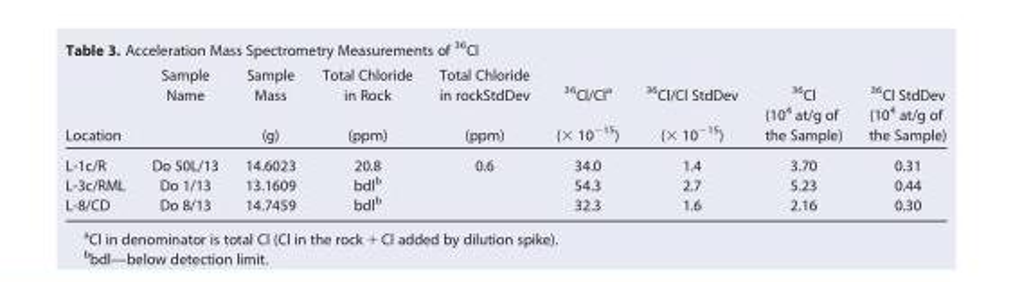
<table><thead><tr><td rowspan="2">Location</td><td rowspan="2">Sample Name</td><td rowspan="2">Sample Mass (g)</td><td rowspan="2">Total Chloride in Rock (ppm)</td><td rowspan="2">Total Chloride in rockStdDev (ppm)</td><td rowspan="2"><sup>36</sup>Cl/Cl<sup>a</sup> (× 10<sup>−15</sup>)</td><td rowspan="2"><sup>36</sup>Cl/Cl StdDev (× 10<sup>−15</sup>)</td><td rowspan="2"><sup>36</sup>Cl (10<sup>4</sup> at/g of the Sample)</td><td rowspan="2"><sup>36</sup>Cl StdDev (10<sup>4</sup> at/g of the Sample)</td></tr><tr></tr></thead><tbody><tr><td>L-1c/R</td><td>Do 50L/13</td><td>14.6023</td><td>20.8</td><td>0.6</td><td>34.0</td><td>1.4</td><td>3.70</td><td>0.31</td></tr><tr><td>L-3c/RML</td><td>Do 1/13</td><td>13.1609</td><td>bdl<sup>b</sup></td><td></td><td>54.3</td><td>2.7</td><td>5.23</td><td>0.44</td></tr><tr><td>L-8/CD</td><td>Do 8/13</td><td>14.7459</td><td>bdl<sup>b</sup></td><td></td><td>32.3</td><td>1.6</td><td>2.16</td><td>0.30</td></tr></tbody></table>